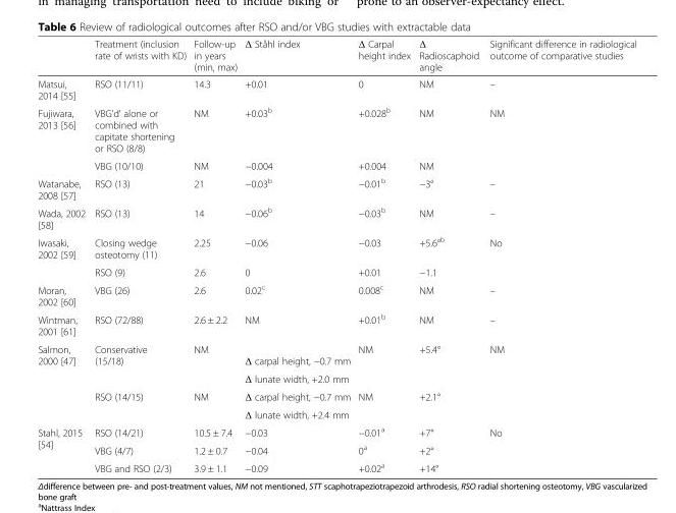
<table><thead><tr><td></td><td>Treatment (inclusion rate of wrists with KD)</td><td>Follow-up in years (min, max)</td><td>Δ Ståhl index</td><td>Δ Carpal height index</td><td>Δ Radioscaphoid angle</td><td>Significant difference in radiological outcome of comparative studies</td></tr></thead><tbody><tr><td>Matsui, 2014 [55]</td><td>RSO (11/11)</td><td>14.3</td><td>+0.01</td><td>0</td><td>NM</td><td>–</td></tr><tr><td rowspan="2">Fujiwara, 2013 [56]</td><td>VBG&#x27;d&#x27; alone or combined with capitate shortening or RSO (8/8)</td><td>NM</td><td>+0.03<sup>b</sup></td><td>+0.028<sup>b</sup></td><td>NM</td><td rowspan="2">NM</td></tr><tr><td>VBG (10/10)</td><td>NM</td><td>−0.004</td><td>+0.004</td><td>NM</td></tr><tr><td>Watanabe, 2008 [57]</td><td>RSO (13)</td><td>21</td><td>−0.03<sup>b</sup></td><td>−0.01<sup>b</sup></td><td>−3°</td><td>–</td></tr><tr><td>Wada, 2002 [58]</td><td>RSO (13)</td><td>14</td><td>−0.06<sup>b</sup></td><td>−0.03<sup>b</sup></td><td>NM</td><td>–</td></tr><tr><td rowspan="2">Iwasaki, 2002 [59]</td><td>Closing wedge osteotomy (11)</td><td>2.25</td><td>−0.06</td><td>−0.03</td><td>+5.6°<sup>b</sup></td><td rowspan="2">No</td></tr><tr><td>RSO (9)</td><td>2.6</td><td>0</td><td>+0.01</td><td>−1.1</td></tr><tr><td>Moran, 2002 [60]</td><td>VBG (26)</td><td>2.6</td><td>0.02<sup>c</sup></td><td>0.008<sup>c</sup></td><td>NM</td><td>–</td></tr><tr><td>Wintman, 2001 [61]</td><td>RSO (72/88)</td><td>2.6 ± 2.2</td><td>NM</td><td>+0.01<sup>b</sup></td><td>NM</td><td>–</td></tr><tr><td rowspan="4">Salmon, 2000 [47]</td><td rowspan="2">Conservative (15/18)</td><td rowspan="2">NM</td><td>Δ carpal height, −0.7 mm</td><td rowspan="2">NM</td><td rowspan="2">+5.4°</td><td rowspan="4">NM</td></tr><tr><td>Δ lunate width, +2.0 mm</td></tr><tr><td rowspan="2">RSO (14/15)</td><td rowspan="2">NM</td><td>Δ carpal height, −0.7 mm</td><td rowspan="2">NM</td><td rowspan="2">+2.1°</td></tr><tr><td>Δ lunate width, +2.4 mm</td></tr><tr><td rowspan="3">Stahl, 2015 [54]</td><td>RSO (14/21)</td><td>10.5 ± 7.4</td><td>−0.03</td><td>−0.01<sup>a</sup></td><td>+7°</td><td rowspan="3">No</td></tr><tr><td>VBG (4/7)</td><td>1.2 ± 0.7</td><td>−0.04</td><td>0<sup>a</sup></td><td>+2°</td></tr><tr><td>VBG and RSO (2/3)</td><td>3.9 ± 1.1</td><td>−0.09</td><td>+0.02<sup>a</sup></td><td>+14°</td></tr></tbody></table>